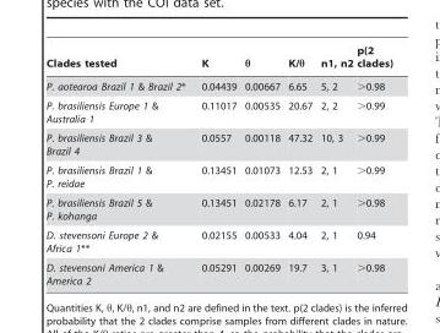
<table><thead><tr><td>Clades tested</td><td>K</td><td>θ</td><td>K/θ</td><td>n1, n2</td><td>p(2 clades)</td></tr></thead><tbody><tr><td>P. aotearoa Brazil 1 &amp; Brazil 2*</td><td>0.04439</td><td>0.00667</td><td>6.65</td><td>5, 2</td><td>&gt;0.98</td></tr><tr><td>P. brasiliensis Europe 1 &amp; Australia 1</td><td>0.11017</td><td>0.00535</td><td>20.67</td><td>2, 2</td><td>&gt;0.99</td></tr><tr><td>P. brasiliensis Brazil 3 &amp; Brazil 4</td><td>0.0557</td><td>0.00118</td><td>47.32</td><td>10, 3</td><td>&gt;0.99</td></tr><tr><td>P. brasiliensis Brazil 1 &amp; P. reidae</td><td>0.13451</td><td>0.01073</td><td>12.53</td><td>2, 1</td><td>&gt;0.99</td></tr><tr><td>P. brasiliensis Brazil 5 &amp; P. kohanga</td><td>0.13451</td><td>0.02178</td><td>6.17</td><td>2, 1</td><td>&gt;0.98</td></tr><tr><td>D. stevensoni Europe 2 &amp; Africa 1**</td><td>0.02155</td><td>0.00533</td><td>4.04</td><td>2, 1</td><td>0.94</td></tr><tr><td>D. stevensoni America 1 &amp; America 2</td><td>0.05291</td><td>0.00269</td><td>19.7</td><td>3, 1</td><td>&gt;0.98</td></tr></tbody></table>